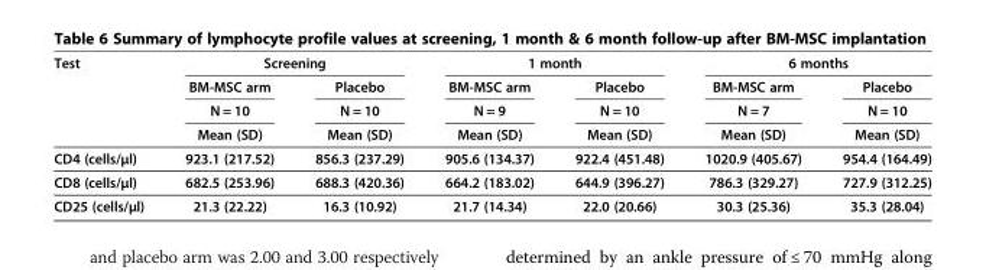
<table><thead><tr><td rowspan="4">Test</td><td colspan="2">Screening</td><td colspan="2">1 month</td><td colspan="2">6 months</td></tr><tr><td rowspan="3">BM-MSC arm N = 10 Mean (SD)</td><td rowspan="3">Placebo N = 10 Mean (SD)</td><td rowspan="3">BM-MSC arm N = 9 Mean (SD)</td><td rowspan="3">Placebo N = 10 Mean (SD)</td><td rowspan="3">BM-MSC arm N = 7 Mean (SD)</td><td rowspan="3">Placebo N = 10 Mean (SD)</td></tr><tr></tr><tr></tr></thead><tbody><tr><td>CD4 (cells/μl)</td><td>923.1 (217.52)</td><td>856.3 (237.29)</td><td>905.6 (134.37)</td><td>922.4 (451.48)</td><td>1020.9 (405.67)</td><td>954.4 (164.49)</td></tr><tr><td>CD8 (cells/μl)</td><td>682.5 (253.96)</td><td>688.3 (420.36)</td><td>664.2 (183.02)</td><td>644.9 (396.27)</td><td>786.3 (329.27)</td><td>727.9 (312.25)</td></tr><tr><td>CD25 (cells/μl)</td><td>21.3 (22.22)</td><td>16.3 (10.92)</td><td>21.7 (14.34)</td><td>22.0 (20.66)</td><td>30.3 (25.36)</td><td>35.3 (28.04)</td></tr></tbody></table>